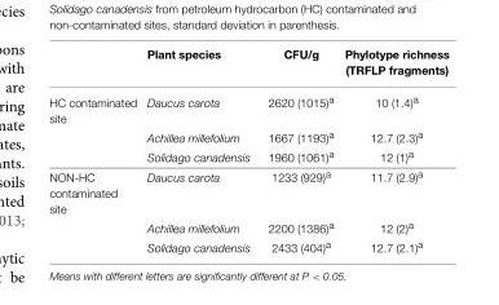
<table><thead><tr><td></td><td>Plant species</td><td>CFU/g</td><td>Phylotype richness (TRFLP fragments)</td></tr></thead><tbody><tr><td rowspan="3">HC contaminated site</td><td>Daucus carota</td><td>2620 (1015)<sup>a</sup></td><td>10 (1.4)<sup>a</sup></td></tr><tr><td>Achillea millefolium</td><td>1667 (1193)<sup>a</sup></td><td>12.7 (2.3)<sup>a</sup></td></tr><tr><td>Solidago canadensis</td><td>1960 (1061)<sup>a</sup></td><td>12 (1)<sup>a</sup></td></tr><tr><td rowspan="3">NON-HC contaminated site</td><td>Daucus carota</td><td>1233 (929)<sup>a</sup></td><td>11.7 (2.9)<sup>a</sup></td></tr><tr><td>Achillea millefolium</td><td>2200 (1386)<sup>a</sup></td><td>12 (2)<sup>a</sup></td></tr><tr><td>Solidago canadensis</td><td>2433 (404)<sup>a</sup></td><td>12.7 (2.1)<sup>a</sup></td></tr></tbody></table>